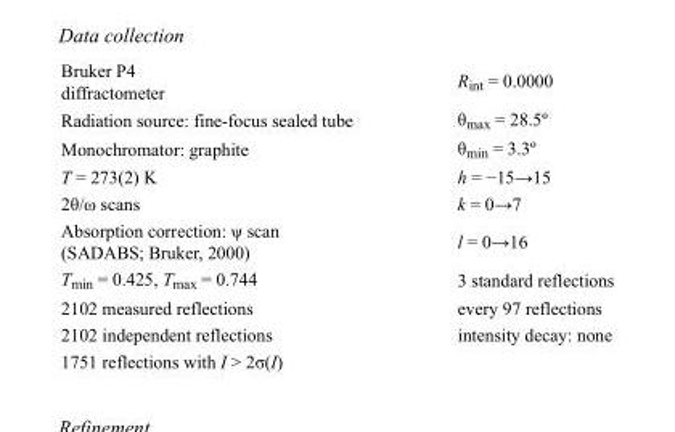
<table><tbody><tr><td>Bruker P4 diffractometer</td><td>R<sub>int</sub> = 0.0000</td></tr><tr><td>Radiation source: fine-focus sealed tube</td><td>θ<sub>max</sub> = 28.5º</td></tr><tr><td>Monochromator: graphite</td><td>θ<sub>min</sub> = 3.3º</td></tr><tr><td>T = 273(2) K</td><td>h = −15→15</td></tr><tr><td>2θ/ω scans</td><td>k = 0→7</td></tr><tr><td>Absorption correction: ψ scan (SADABS; Bruker, 2000)</td><td>l = 0→16</td></tr><tr><td>T<sub>min</sub> = 0.425, T<sub>max</sub> = 0.744</td><td>3 standard reflections</td></tr><tr><td>2102 measured reflections</td><td>every 97 reflections</td></tr><tr><td>2102 independent reflections</td><td>intensity decay: none</td></tr><tr><td>1751 reflections with I &gt; 2σ(I)</td><td></td></tr></tbody></table>